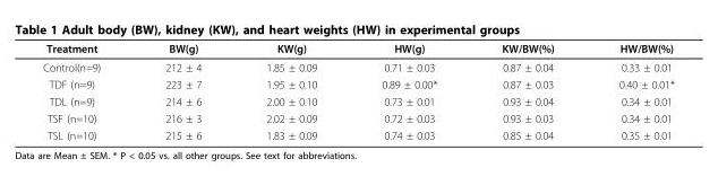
<table><thead><tr><td>Treatment</td><td>BW(g)</td><td>KW(g)</td><td>HW(g)</td><td>KW/BW(%)</td><td>HW/BW(%)</td></tr></thead><tbody><tr><td>Control(n=9)</td><td>212 ± 4</td><td>1.85 ± 0.09</td><td>0.71 ± 0.03</td><td>0.87 ± 0.04</td><td>0.33 ± 0.01</td></tr><tr><td>TDF (n=9)</td><td>223 ± 7</td><td>1.95 ± 0.10</td><td>0.89 ± 0.00*</td><td>0.87 ± 0.03</td><td>0.40 ± 0.01*</td></tr><tr><td>TDL (n=9)</td><td>214 ± 6</td><td>2.00 ± 0.10</td><td>0.73 ± 0.01</td><td>0.93 ± 0.04</td><td>0.34 ± 0.01</td></tr><tr><td>TSF (n=10)</td><td>216 ± 3</td><td>2.02 ± 0.09</td><td>0.72 ± 0.03</td><td>0.93 ± 0.03</td><td>0.34 ± 0.01</td></tr><tr><td>TSL (n=10)</td><td>215 ± 6</td><td>1.83 ± 0.09</td><td>0.74 ± 0.03</td><td>0.85 ± 0.04</td><td>0.35 ± 0.01</td></tr></tbody></table>